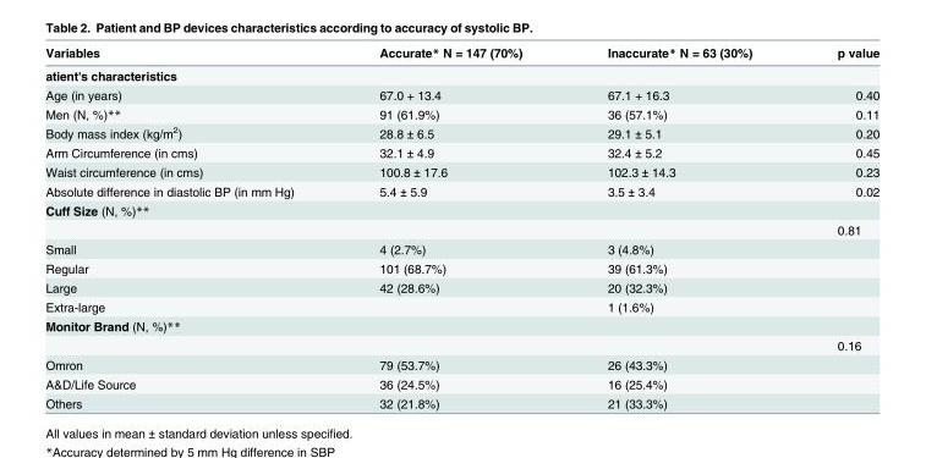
<table><thead><tr><td>Variables</td><td>Accurate* N = 147 (70%)</td><td>Inaccurate* N = 63 (30%)</td><td>p value</td></tr></thead><tbody><tr><td colspan="4">atient&#x27;s characteristics</td></tr><tr><td>Age (in years)</td><td>67.0 + 13.4</td><td>67.1 + 16.3</td><td>0.40</td></tr><tr><td>Men (N, %)**</td><td>91 (61.9%)</td><td>36 (57.1%)</td><td>0.11</td></tr><tr><td>Body mass index (kg/m<sup>2</sup>)</td><td>28.8 ± 6.5</td><td>29.1 ± 5.1</td><td>0.20</td></tr><tr><td>Arm Circumference (in cms)</td><td>32.1 ± 4.9</td><td>32.4 ± 5.2</td><td>0.45</td></tr><tr><td>Waist circumference (in cms)</td><td>100.8 ± 17.6</td><td>102.3 ± 14.3</td><td>0.23</td></tr><tr><td>Absolute difference in diastolic BP (in mm Hg)</td><td>5.4 ± 5.9</td><td>3.5 ± 3.4</td><td>0.02</td></tr><tr><td colspan="4">Cuff Size (N, %)**</td></tr><tr><td></td><td></td><td></td><td>0.81</td></tr><tr><td>Small</td><td>4 (2.7%)</td><td>3 (4.8%)</td><td></td></tr><tr><td>Regular</td><td>101 (68.7%)</td><td>39 (61.3%)</td><td></td></tr><tr><td>Large</td><td>42 (28.6%)</td><td>20 (32.3%)</td><td></td></tr><tr><td>Extra-large</td><td></td><td>1 (1.6%)</td><td></td></tr><tr><td colspan="4">Monitor Brand (N, %)**</td></tr><tr><td></td><td></td><td></td><td>0.16</td></tr><tr><td>Omron</td><td>79 (53.7%)</td><td>26 (43.3%)</td><td></td></tr><tr><td>A&amp;D/Life Source</td><td>36 (24.5%)</td><td>16 (25.4%)</td><td></td></tr><tr><td>Others</td><td>32 (21.8%)</td><td>21 (33.3%)</td><td></td></tr></tbody></table>